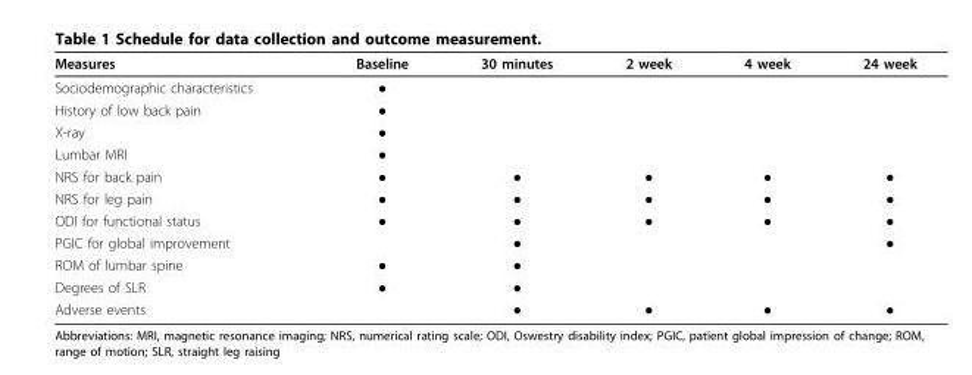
<table><thead><tr><td>Measures</td><td>Baseline</td><td>30 minutes</td><td>2 week</td><td>4 week</td><td>24 week</td></tr></thead><tbody><tr><td>Sociodemographic characteristics</td><td>●</td><td></td><td></td><td></td><td></td></tr><tr><td>History of low back pain</td><td>●</td><td></td><td></td><td></td><td></td></tr><tr><td>X-ray</td><td>●</td><td></td><td></td><td></td><td></td></tr><tr><td>Lumbar MRI</td><td>●</td><td></td><td></td><td></td><td></td></tr><tr><td>NRS for back pain</td><td>●</td><td>●</td><td>●</td><td>●</td><td>●</td></tr><tr><td>NRS for leg pain</td><td>●</td><td>●</td><td>●</td><td>●</td><td>●</td></tr><tr><td>ODI for functional status</td><td>●</td><td>●</td><td>●</td><td>●</td><td>●</td></tr><tr><td>PGIC for global improvement</td><td></td><td>●</td><td></td><td></td><td>●</td></tr><tr><td>ROM of lumbar spine</td><td>●</td><td>●</td><td></td><td></td><td></td></tr><tr><td>Degrees of SLR</td><td>●</td><td>●</td><td></td><td></td><td></td></tr><tr><td>Adverse events</td><td></td><td>●</td><td>●</td><td>●</td><td>●</td></tr></tbody></table>